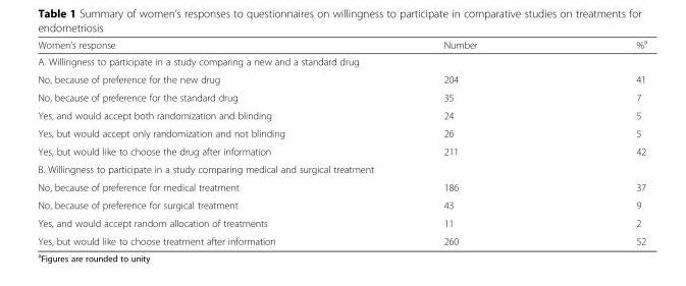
<table><thead><tr><td>Women’s response</td><td>Number</td><td>%<sup>a</sup></td></tr></thead><tbody><tr><td colspan="3">A. Willingness to participate in a study comparing a new and a standard drug</td></tr><tr><td>No, because of preference for the new drug</td><td>204</td><td>41</td></tr><tr><td>No, because of preference for the standard drug</td><td>35</td><td>7</td></tr><tr><td>Yes, and would accept both randomization and blinding</td><td>24</td><td>5</td></tr><tr><td>Yes, but would accept only randomization and not blinding</td><td>26</td><td>5</td></tr><tr><td>Yes, but would like to choose the drug after information</td><td>211</td><td>42</td></tr><tr><td colspan="3">B. Willingness to participate in a study comparing medical and surgical treatment</td></tr><tr><td>No, because of preference for medical treatment</td><td>186</td><td>37</td></tr><tr><td>No, because of preference for surgical treatment</td><td>43</td><td>9</td></tr><tr><td>Yes, and would accept random allocation of treatments</td><td>11</td><td>2</td></tr><tr><td>Yes, but would like to choose treatment after information</td><td>260</td><td>52</td></tr></tbody></table>